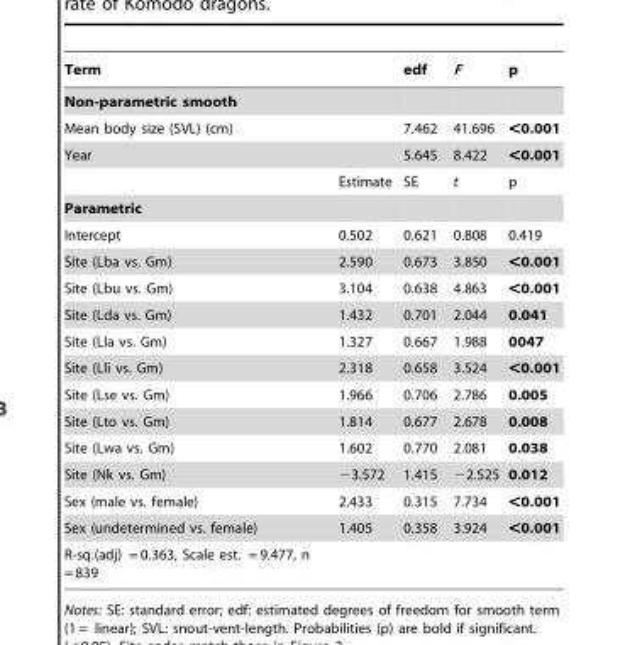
<table><thead><tr><td>Term</td><td></td><td>edf</td><td>F</td><td>p</td></tr></thead><tbody><tr><td colspan="5">Non-parametric smooth</td></tr><tr><td>Mean body size (SVL) (cm)</td><td></td><td>7.462</td><td>41.696</td><td>&lt;0.001</td></tr><tr><td rowspan="2">Year</td><td></td><td>5.645</td><td>8.422</td><td>&lt;0.001</td></tr><tr><td>Estimate</td><td>SE</td><td>t</td><td>p</td></tr><tr><td colspan="5">Parametric</td></tr><tr><td>Intercept</td><td>0.502</td><td>0.621</td><td>0.808</td><td>0.419</td></tr><tr><td>Site (Lba vs. Gm)</td><td>2.590</td><td>0.673</td><td>3.850</td><td>&lt;0.001</td></tr><tr><td>Site (Lbu vs. Gm)</td><td>3.104</td><td>0.638</td><td>4.863</td><td>&lt;0.001</td></tr><tr><td>Site (Lda vs. Gm)</td><td>1.432</td><td>0.701</td><td>2.044</td><td>0.041</td></tr><tr><td>Site (Lla vs. Gm)</td><td>1.327</td><td>0.667</td><td>1.988</td><td>0047</td></tr><tr><td>Site (Lli vs. Gm)</td><td>2.318</td><td>0.658</td><td>3.524</td><td>&lt;0.001</td></tr><tr><td>Site (Lse vs. Gm)</td><td>1.966</td><td>0.706</td><td>2.786</td><td>0.005</td></tr><tr><td>Site (Lto vs. Gm)</td><td>1.814</td><td>0.677</td><td>2.678</td><td>0.008</td></tr><tr><td>Site (Lwa vs. Gm)</td><td>1.602</td><td>0.770</td><td>2.081</td><td>0.038</td></tr><tr><td>Site (Nk vs. Gm)</td><td>−3.572</td><td>1.415</td><td>−2.525</td><td>0.012</td></tr><tr><td>Sex (male vs. female)</td><td>2.433</td><td>0.315</td><td>7.734</td><td>&lt;0.001</td></tr><tr><td>Sex (undetermined vs. female)</td><td>1.405</td><td>0.358</td><td>3.924</td><td>&lt;0.001</td></tr><tr><td>R-sq.(adj) = 0.363, Scale est. = 9.477, n = 839</td><td></td><td></td><td></td><td></td></tr></tbody></table>